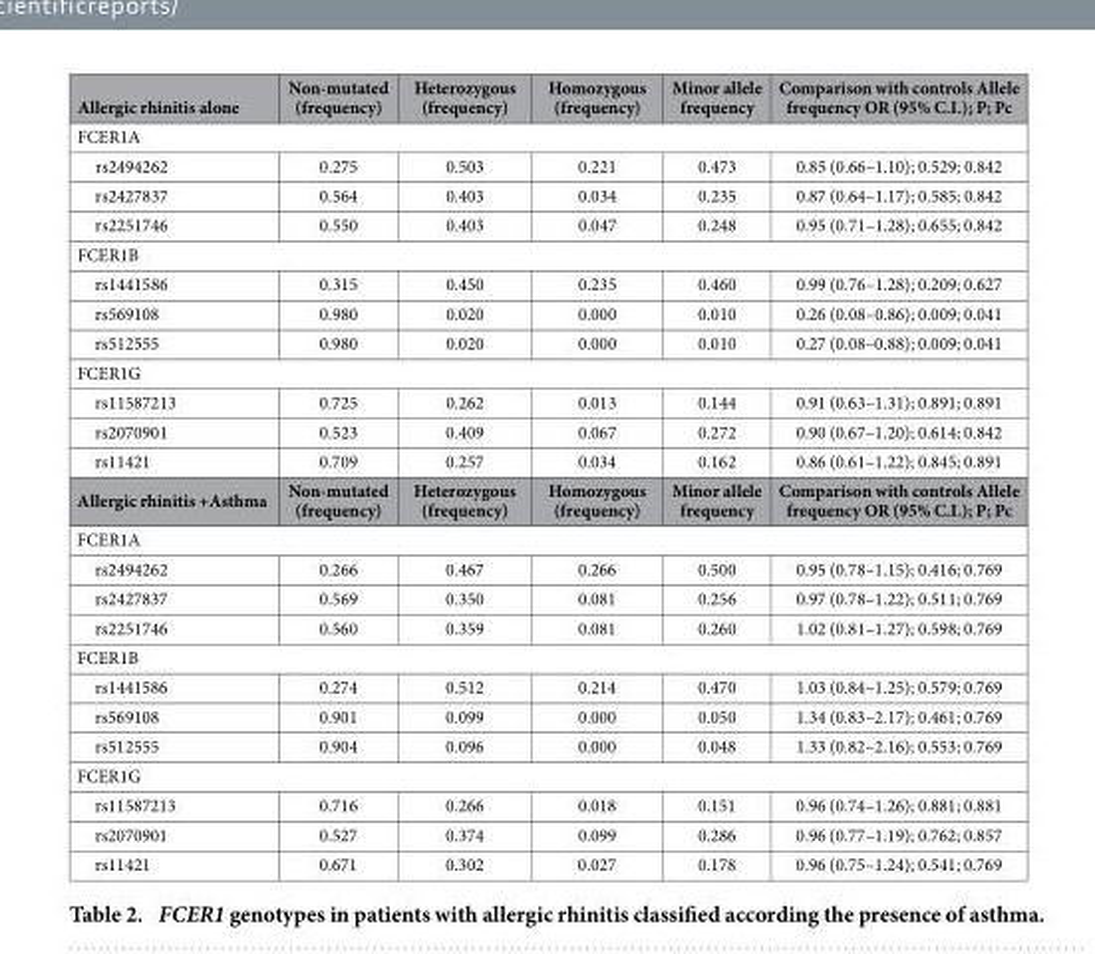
<table><thead><tr><td>Allergic rhinitis alone</td><td>Non-mutated (frequency)</td><td>Heterozygous (frequency)</td><td>Homozygous (frequency)</td><td>Minor allele frequency</td><td>Comparison with controls Allele frequency OR (95% C.I.); P; Pc</td></tr></thead><tbody><tr><td colspan="6">FCER1A</td></tr><tr><td>rs2494262</td><td>0.275</td><td>0.503</td><td>0.221</td><td>0.473</td><td>0.85 (0.66–1.10); 0.529; 0.842</td></tr><tr><td>rs2427837</td><td>0.564</td><td>0.403</td><td>0.034</td><td>0.235</td><td>0.87 (0.64–1.17); 0.585; 0.842</td></tr><tr><td>rs2251746</td><td>0.550</td><td>0.403</td><td>0.047</td><td>0.248</td><td>0.95 (0.71–1.28); 0.655; 0.842</td></tr><tr><td colspan="6">FCER1B</td></tr><tr><td>rs1441586</td><td>0.315</td><td>0.450</td><td>0.235</td><td>0.460</td><td>0.99 (0.76–1.28); 0.209; 0.627</td></tr><tr><td>rs569108</td><td>0.980</td><td>0.020</td><td>0.000</td><td>0.010</td><td>0.26 (0.08–0.86); 0.009; 0.041</td></tr><tr><td>rs512555</td><td>0.980</td><td>0.020</td><td>0.000</td><td>0.010</td><td>0.27 (0.08–0.88); 0.009; 0.041</td></tr><tr><td colspan="6">FCER1G</td></tr><tr><td>rs11587213</td><td>0.725</td><td>0.262</td><td>0.013</td><td>0.144</td><td>0.91 (0.63–1.31); 0.891; 0.891</td></tr><tr><td>rs2070901</td><td>0.523</td><td>0.409</td><td>0.067</td><td>0.272</td><td>0.90 (0.67–1.20); 0.614; 0.842</td></tr><tr><td>rs11421</td><td>0.709</td><td>0.257</td><td>0.034</td><td>0.162</td><td>0.86 (0.61–1.22); 0.845; 0.891</td></tr><tr><td>Allergic rhinitis +Asthma</td><td>Non-mutated (frequency)</td><td>Heterozygous (frequency)</td><td>Homozygous (frequency)</td><td>Minor allele frequency</td><td>Comparison with controls Allele frequency OR (95% C.I.); P; Pc</td></tr><tr><td colspan="6">FCER1A</td></tr><tr><td>rs2494262</td><td>0.266</td><td>0.467</td><td>0.266</td><td>0.500</td><td>0.95 (0.78–1.15); 0.416; 0.769</td></tr><tr><td>rs2427837</td><td>0.569</td><td>0.350</td><td>0.081</td><td>0.256</td><td>0.97 (0.78–1.22); 0.511; 0.769</td></tr><tr><td>rs2251746</td><td>0.560</td><td>0.359</td><td>0.081</td><td>0.260</td><td>1.02 (0.81–1.27); 0.598; 0.769</td></tr><tr><td colspan="6">FCER1B</td></tr><tr><td>rs1441586</td><td>0.274</td><td>0.512</td><td>0.214</td><td>0.470</td><td>1.03 (0.84–1.25); 0.579; 0.769</td></tr><tr><td>rs569108</td><td>0.901</td><td>0.099</td><td>0.000</td><td>0.050</td><td>1.34 (0.83–2.17); 0.461; 0.769</td></tr><tr><td>rs512555</td><td>0.904</td><td>0.096</td><td>0.000</td><td>0.048</td><td>1.33 (0.82–2.16); 0.553; 0.769</td></tr><tr><td colspan="6">FCER1G</td></tr><tr><td>rs11587213</td><td>0.716</td><td>0.266</td><td>0.018</td><td>0.151</td><td>0.96 (0.74–1.26); 0.881; 0.881</td></tr><tr><td>rs2070901</td><td>0.527</td><td>0.374</td><td>0.099</td><td>0.286</td><td>0.96 (0.77–1.19); 0.762; 0.857</td></tr><tr><td>rs11421</td><td>0.671</td><td>0.302</td><td>0.027</td><td>0.178</td><td>0.96 (0.75–1.24); 0.541; 0.769</td></tr></tbody></table>